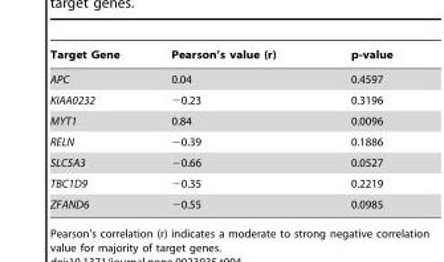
<table><thead><tr><td>Target Gene</td><td>Pearson’s value (r)</td><td>p-value</td></tr></thead><tbody><tr><td>APC</td><td>0.04</td><td>0.4597</td></tr><tr><td>KIAA0232</td><td>−0.23</td><td>0.3196</td></tr><tr><td>MYT1</td><td>0.84</td><td>0.0096</td></tr><tr><td>RELN</td><td>−0.39</td><td>0.1886</td></tr><tr><td>SLC5A3</td><td>−0.66</td><td>0.0527</td></tr><tr><td>TBC1D9</td><td>−0.35</td><td>0.2219</td></tr><tr><td>ZFAND6</td><td>−0.55</td><td>0.0985</td></tr></tbody></table>